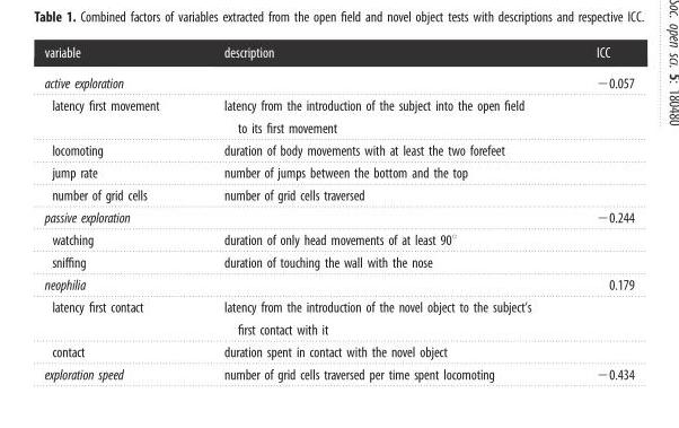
<table><thead><tr><td>variable</td><td>description</td><td>ICC</td></tr></thead><tbody><tr><td>active exploration</td><td></td><td>−0.057</td></tr><tr><td>latency first movement</td><td>latency from the introduction of the subject into the open field to its first movement</td><td></td></tr><tr><td>locomoting</td><td>duration of body movements with at least the two forefeet</td><td></td></tr><tr><td>jump rate</td><td>number of jumps between the bottom and the top</td><td></td></tr><tr><td>number of grid cells</td><td>number of grid cells traversed</td><td></td></tr><tr><td>passive exploration</td><td></td><td>−0.244</td></tr><tr><td>watching</td><td>duration of only head movements of at least 90°</td><td></td></tr><tr><td>sniffing</td><td>duration of touching the wall with the nose</td><td></td></tr><tr><td>neophilia</td><td></td><td>0.179</td></tr><tr><td>latency first contact</td><td>latency from the introduction of the novel object to the subject’s first contact with it</td><td></td></tr><tr><td>contact</td><td>duration spent in contact with the novel object</td><td></td></tr><tr><td>exploration speed</td><td>number of grid cells traversed per time spent locomoting</td><td>−0.434</td></tr></tbody></table>